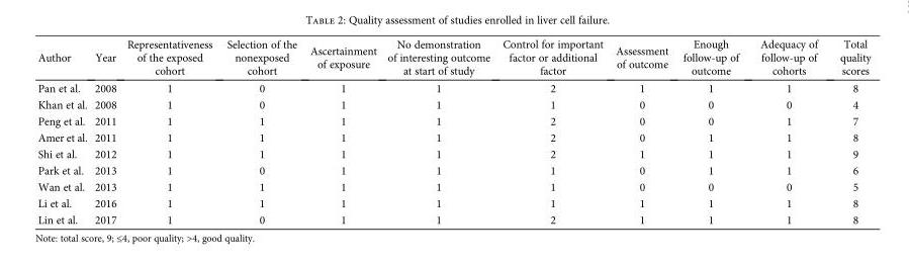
<table><thead><tr><td>Author</td><td>Year</td><td>Representativeness of the exposed cohort</td><td>Selection of the nonexposed cohort</td><td>Ascertainment of exposure</td><td>No demonstration of interesting outcome at start of study</td><td>Control for important factor or additional factor</td><td>Assessment of outcome</td><td>Enough follow-up of outcome</td><td>Adequacy of follow-up of cohorts</td><td>Total quality scores</td></tr></thead><tbody><tr><td>Pan et al.</td><td>2008</td><td>1</td><td>0</td><td>1</td><td>1</td><td>2</td><td>1</td><td>1</td><td>1</td><td>8</td></tr><tr><td>Khan et al.</td><td>2008</td><td>1</td><td>0</td><td>1</td><td>1</td><td>1</td><td>0</td><td>0</td><td>0</td><td>4</td></tr><tr><td>Peng et al.</td><td>2011</td><td>1</td><td>1</td><td>1</td><td>1</td><td>2</td><td>0</td><td>0</td><td>1</td><td>7</td></tr><tr><td>Amer et al.</td><td>2011</td><td>1</td><td>1</td><td>1</td><td>1</td><td>2</td><td>0</td><td>1</td><td>1</td><td>8</td></tr><tr><td>Shi et al.</td><td>2012</td><td>1</td><td>1</td><td>1</td><td>1</td><td>2</td><td>1</td><td>1</td><td>1</td><td>9</td></tr><tr><td>Park et al.</td><td>2013</td><td>1</td><td>0</td><td>1</td><td>1</td><td>1</td><td>0</td><td>1</td><td>1</td><td>6</td></tr><tr><td>Wan et al.</td><td>2013</td><td>1</td><td>1</td><td>1</td><td>1</td><td>1</td><td>0</td><td>0</td><td>0</td><td>5</td></tr><tr><td>Li et al.</td><td>2016</td><td>1</td><td>1</td><td>1</td><td>1</td><td>1</td><td>1</td><td>1</td><td>1</td><td>8</td></tr><tr><td>Lin et al.</td><td>2017</td><td>1</td><td>0</td><td>1</td><td>1</td><td>2</td><td>1</td><td>1</td><td>1</td><td>8</td></tr></tbody></table>